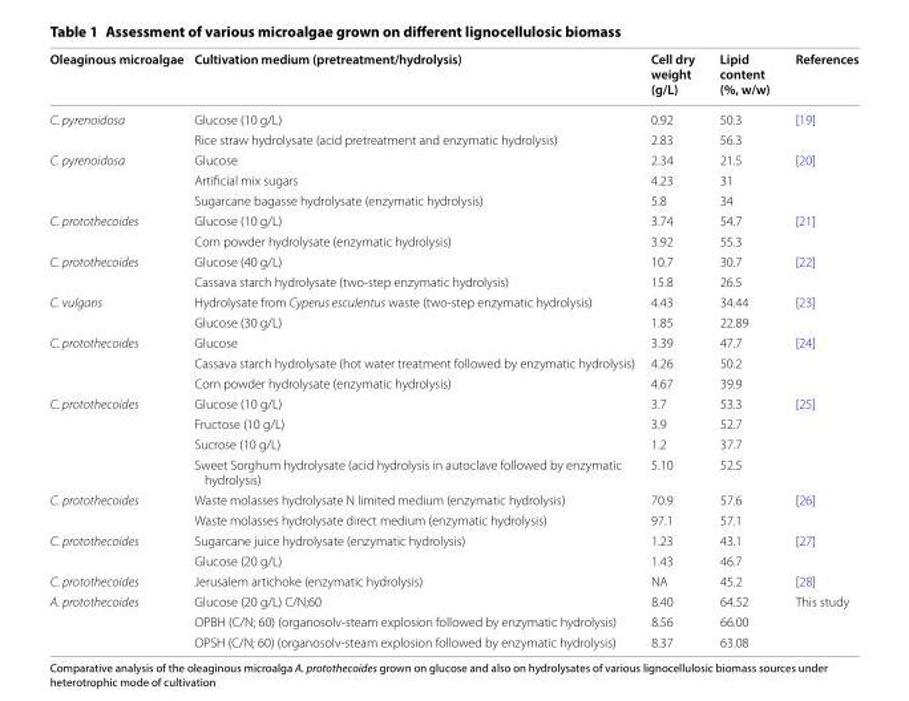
<table><thead><tr><td>Oleaginous microalgae</td><td>Cultivation medium (pretreatment/hydrolysis)</td><td>Cell dry weight (g/L)</td><td>Lipid content (%, w/w)</td><td>References</td></tr></thead><tbody><tr><td rowspan="2">C. pyrenoidosa</td><td>Glucose (10 g/L)</td><td>0.92</td><td>50.3</td><td rowspan="2">[19]</td></tr><tr><td>Rice straw hydrolysate (acid pretreatment and enzymatic hydrolysis)</td><td>2.83</td><td>56.3</td></tr><tr><td rowspan="3">C. pyrenoidosa</td><td>Glucose</td><td>2.34</td><td>21.5</td><td rowspan="3">[20]</td></tr><tr><td>Artificial mix sugars</td><td>4.23</td><td>31</td></tr><tr><td>Sugarcane bagasse hydrolysate (enzymatic hydrolysis)</td><td>5.8</td><td>34</td></tr><tr><td rowspan="2">C. protothecoides</td><td>Glucose (10 g/L)</td><td>3.74</td><td>54.7</td><td rowspan="2">[21]</td></tr><tr><td>Corn powder hydrolysate (enzymatic hydrolysis)</td><td>3.92</td><td>55.3</td></tr><tr><td rowspan="2">C. protothecoides</td><td>Glucose (40 g/L)</td><td>10.7</td><td>30.7</td><td rowspan="2">[22]</td></tr><tr><td>Cassava starch hydrolysate (two-step enzymatic hydrolysis)</td><td>15.8</td><td>26.5</td></tr><tr><td rowspan="2">C. vulgaris</td><td>Hydrolysate from Cyperus esculentus waste (two-step enzymatic hydrolysis)</td><td>4.43</td><td>34.44</td><td rowspan="2">[23]</td></tr><tr><td>Glucose (30 g/L)</td><td>1.85</td><td>22.89</td></tr><tr><td rowspan="3">C. protothecoides</td><td>Glucose</td><td>3.39</td><td>47.7</td><td rowspan="3">[24]</td></tr><tr><td>Cassava starch hydrolysate (hot water treatment followed by enzymatic hydrolysis)</td><td>4.26</td><td>50.2</td></tr><tr><td>Corn powder hydrolysate (enzymatic hydrolysis)</td><td>4.67</td><td>39.9</td></tr><tr><td rowspan="4">C. protothecoides</td><td>Glucose (10 g/L)</td><td>3.7</td><td>53.3</td><td rowspan="4">[25]</td></tr><tr><td>Fructose (10 g/L)</td><td>3.9</td><td>52.7</td></tr><tr><td>Sucrose (10 g/L)</td><td>1.2</td><td>37.7</td></tr><tr><td>Sweet Sorghum hydrolysate (acid hydrolysis in autoclave followed by enzymatic hydrolysis)</td><td>5.10</td><td>52.5</td></tr><tr><td rowspan="2">C. protothecoides</td><td>Waste molasses hydrolysate N limited medium (enzymatic hydrolysis)</td><td>70.9</td><td>57.6</td><td rowspan="2">[26]</td></tr><tr><td>Waste molasses hydrolysate direct medium (enzymatic hydrolysis)</td><td>97.1</td><td>57.1</td></tr><tr><td rowspan="2">C. protothecoides</td><td>Sugarcane juice hydrolysate (enzymatic hydrolysis)</td><td>1.23</td><td>43.1</td><td rowspan="2">[27]</td></tr><tr><td>Glucose (20 g/L)</td><td>1.43</td><td>46.7</td></tr><tr><td>C. protothecoides</td><td>Jerusalem artichoke (enzymatic hydrolysis)</td><td>NA</td><td>45.2</td><td>[28]</td></tr><tr><td rowspan="3">A. protothecoides</td><td>Glucose (20 g/L) C/N;60</td><td>8.40</td><td>64.52</td><td rowspan="3">This study</td></tr><tr><td>OPBH (C/N; 60) (organosolv-steam explosion followed by enzymatic hydrolysis)</td><td>8.56</td><td>66.00</td></tr><tr><td>OPSH (C/N; 60) (organosolv-steam explosion followed by enzymatic hydrolysis)</td><td>8.37</td><td>63.08</td></tr></tbody></table>